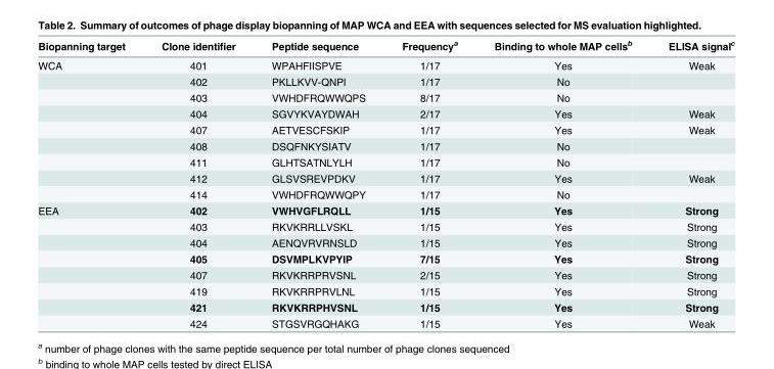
<table><thead><tr><td>Biopanning target</td><td>Clone identifier</td><td>Peptide sequence</td><td>Frequency<sup>a</sup></td><td>Binding to whole MAP cells<sup>b</sup></td><td>ELISA signal<sup>c</sup></td></tr></thead><tbody><tr><td rowspan="9">WCA</td><td>401</td><td>WPAHFIISPVE</td><td>1/17</td><td>Yes</td><td>Weak</td></tr><tr><td>402</td><td>PKLLKVV-QNPI</td><td>1/17</td><td>No</td><td></td></tr><tr><td>403</td><td>VWHDFRQWWQPS</td><td>8/17</td><td>No</td><td></td></tr><tr><td>404</td><td>SGVYKVAYDWAH</td><td>2/17</td><td>Yes</td><td>Weak</td></tr><tr><td>407</td><td>AETVESCFSKIP</td><td>1/17</td><td>Yes</td><td>Weak</td></tr><tr><td>408</td><td>DSQFNKYSIATV</td><td>1/17</td><td>No</td><td></td></tr><tr><td>411</td><td>GLHTSATNLYLH</td><td>1/17</td><td>No</td><td></td></tr><tr><td>412</td><td>GLSVSREVPDKV</td><td>1/17</td><td>Yes</td><td>Weak</td></tr><tr><td>414</td><td>VWHDFRQWWQPY</td><td>1/17</td><td>No</td><td></td></tr><tr><td rowspan="8">EEA</td><td>402</td><td>VWHVGFLRQLL</td><td>1/15</td><td>Yes</td><td>Strong</td></tr><tr><td>403</td><td>RKVKRRLLVSKL</td><td>1/15</td><td>Yes</td><td>Strong</td></tr><tr><td>404</td><td>AENQVRVRNSLD</td><td>1/15</td><td>Yes</td><td>Strong</td></tr><tr><td>405</td><td>DSVMPLKVPYIP</td><td>7/15</td><td>Yes</td><td>Strong</td></tr><tr><td>407</td><td>RKVKRRPRVSNL</td><td>2/15</td><td>Yes</td><td>Strong</td></tr><tr><td>419</td><td>RKVKRRPRVLNL</td><td>1/15</td><td>Yes</td><td>Strong</td></tr><tr><td>421</td><td>RKVKRRPHVSNL</td><td>1/15</td><td>Yes</td><td>Strong</td></tr><tr><td>424</td><td>STGSVRGQHAKG</td><td>1/15</td><td>Yes</td><td>Weak</td></tr></tbody></table>